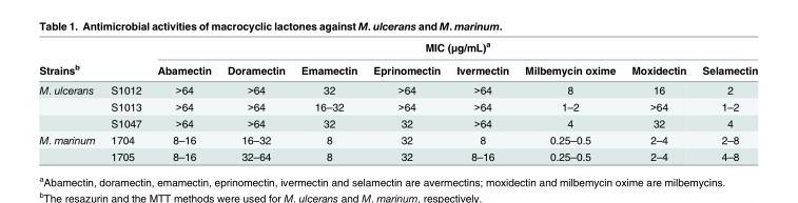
<table><thead><tr><td rowspan="2">Strains<sup>b</sup></td><td rowspan="2"></td><td colspan="8">MIC (μg/mL)<sup>a</sup></td></tr><tr><td>Abamectin</td><td>Doramectin</td><td>Emamectin</td><td>Eprinomectin</td><td>Ivermectin</td><td>Milbemycin oxime</td><td>Moxidectin</td><td>Selamectin</td></tr></thead><tbody><tr><td rowspan="3">M. ulcerans</td><td>S1012</td><td>&gt;64</td><td>&gt;64</td><td>32</td><td>&gt;64</td><td>&gt;64</td><td>8</td><td>16</td><td>2</td></tr><tr><td>S1013</td><td>&gt;64</td><td>&gt;64</td><td>16–32</td><td>&gt;64</td><td>&gt;64</td><td>1–2</td><td>&gt;64</td><td>1–2</td></tr><tr><td>S1047</td><td>&gt;64</td><td>&gt;64</td><td>32</td><td>32</td><td>&gt;64</td><td>4</td><td>32</td><td>4</td></tr><tr><td rowspan="2">M. marinum</td><td>1704</td><td>8–16</td><td>16–32</td><td>8</td><td>32</td><td>8</td><td>0.25–0.5</td><td>2–4</td><td>2–8</td></tr><tr><td>1705</td><td>8–16</td><td>32–64</td><td>8</td><td>32</td><td>8–16</td><td>0.25–0.5</td><td>2–4</td><td>4–8</td></tr></tbody></table>